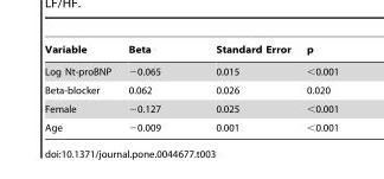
<table><thead><tr><td>Variable</td><td>Beta</td><td>Standard Error</td><td>p</td></tr></thead><tbody><tr><td>Log Nt-proBNP</td><td>−0.065</td><td>0.015</td><td>&lt;0.001</td></tr><tr><td>Beta-blocker</td><td>0.062</td><td>0.026</td><td>0.020</td></tr><tr><td>Female</td><td>−0.127</td><td>0.025</td><td>&lt;0.001</td></tr><tr><td>Age</td><td>−0.009</td><td>0.001</td><td>&lt;0.001</td></tr></tbody></table>